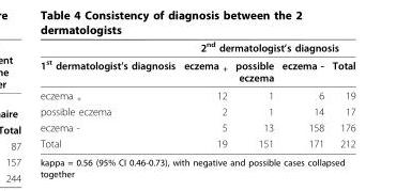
<table><thead><tr><td rowspan="2">1<sup>st</sup> dermatologist’s diagnosis</td><td colspan="4">2<sup>nd</sup> dermatologist’s diagnosis</td></tr><tr><td>eczema +</td><td>possible eczema</td><td>eczema -</td><td>Total</td></tr></thead><tbody><tr><td>eczema <sub>+</sub></td><td>12</td><td>1</td><td>6</td><td>19</td></tr><tr><td>possible eczema</td><td>2</td><td>1</td><td>14</td><td>17</td></tr><tr><td>eczema -</td><td>5</td><td>13</td><td>158</td><td>176</td></tr><tr><td>Total</td><td>19</td><td>151</td><td>171</td><td>212</td></tr></tbody></table>